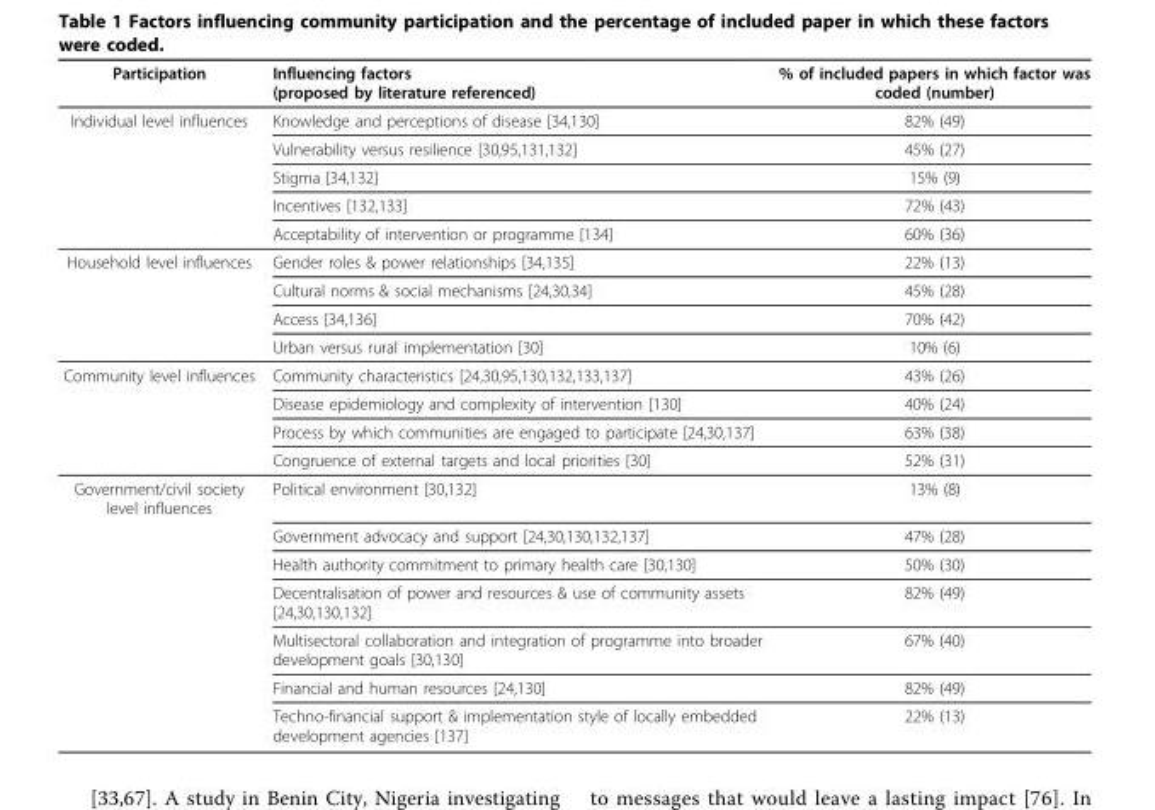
<table><thead><tr><td>Participation</td><td>Influencing factors (proposed by literature referenced)</td><td>% of included papers in which factor was coded (number)</td></tr></thead><tbody><tr><td rowspan="5">Individual level influences</td><td>Knowledge and perceptions of disease [34,130]</td><td>82% (49)</td></tr><tr><td>Vulnerability versus resilience [30,95,131,132]</td><td>45% (27)</td></tr><tr><td>Stigma [34,132]</td><td>15% (9)</td></tr><tr><td>Incentives [132,133]</td><td>72% (43)</td></tr><tr><td>Acceptability of intervention or programme [134]</td><td>60% (36)</td></tr><tr><td rowspan="4">Household level influences</td><td>Gender roles &amp; power relationships [34,135]</td><td>22% (13)</td></tr><tr><td>Cultural norms &amp; social mechanisms [24,30,34]</td><td>45% (28)</td></tr><tr><td>Access [34,136]</td><td>70% (42)</td></tr><tr><td>Urban versus rural implementation [30]</td><td>10% (6)</td></tr><tr><td rowspan="4">Community level influences</td><td>Community characteristics [24,30,95,130,132,133,137]</td><td>43% (26)</td></tr><tr><td>Disease epidemiology and complexity of intervention [130]</td><td>40% (24)</td></tr><tr><td>Process by which communities are engaged to participate [24,30,137]</td><td>63% (38)</td></tr><tr><td>Congruence of external targets and local priorities [30]</td><td>52% (31)</td></tr><tr><td rowspan="7">Government/civil society level influences</td><td>Political environment [30,132]</td><td>13% (8)</td></tr><tr><td>Government advocacy and support [24,30,130,132,137]</td><td>47% (28)</td></tr><tr><td>Health authority commitment to primary health care [30,130]</td><td>50% (30)</td></tr><tr><td>Decentralisation of power and resources &amp; use of community assets [24,30,130,132]</td><td>82% (49)</td></tr><tr><td>Multisectoral collaboration and integration of programme into broader development goals [30,130]</td><td>67% (40)</td></tr><tr><td>Financial and human resources [24,130]</td><td>82% (49)</td></tr><tr><td>Techno-financial support &amp; implementation style of locally embedded development agencies [137]</td><td>22% (13)</td></tr></tbody></table>